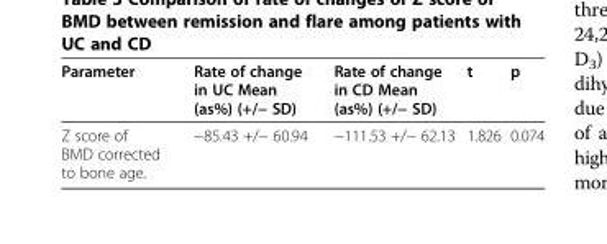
<table><thead><tr><td>Parameter</td><td>Rate of change in UC Mean (as%) (+/− SD)</td><td>Rate of change in CD Mean (as%) (+/− SD)</td><td>t</td><td>p</td></tr></thead><tbody><tr><td>Z score of BMD corrected to bone age.</td><td>−85.43 +/− 60.94</td><td>−111.53 +/− 62.13</td><td>1.826</td><td>0.074</td></tr></tbody></table>